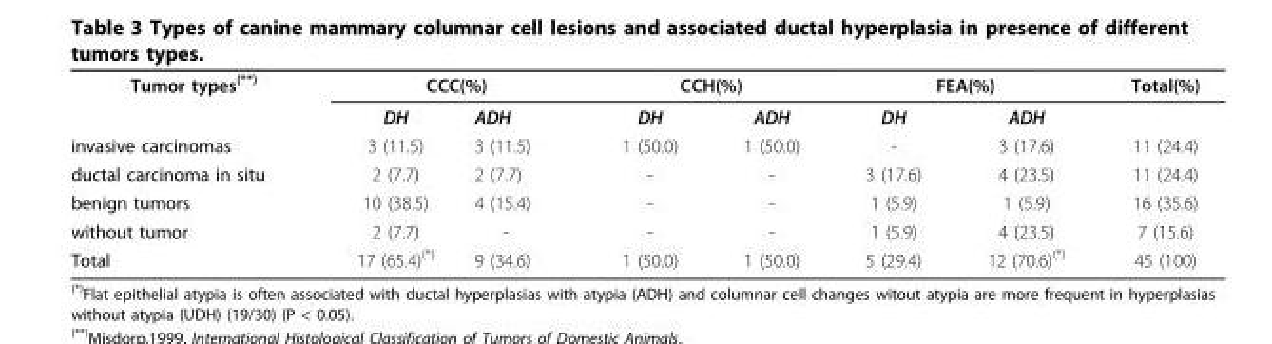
<table><tbody><tr><td rowspan="2">Tumor types<sup>(**)</sup></td><td colspan="2">CCC(%)</td><td colspan="2">CCH(%)</td><td colspan="2">FEA(%)</td><td>Total(%)</td></tr><tr><td>DH</td><td>ADH</td><td>DH</td><td>ADH</td><td>DH</td><td>ADH</td><td></td></tr><tr><td>invasive carcinomas</td><td>3 (11.5)</td><td>3 (11.5)</td><td>1 (50.0)</td><td>1 (50.0)</td><td>-</td><td>3 (17.6)</td><td>11 (24.4)</td></tr><tr><td>ductal carcinoma in situ</td><td>2 (7.7)</td><td>2 (7.7)</td><td>-</td><td>-</td><td>3 (17.6)</td><td>4 (23.5)</td><td>11 (24.4)</td></tr><tr><td>benign tumors</td><td>10 (38.5)</td><td>4 (15.4)</td><td>-</td><td>-</td><td>1 (5.9)</td><td>1 (5.9)</td><td>16 (35.6)</td></tr><tr><td>without tumor</td><td>2 (7.7)</td><td>-</td><td>-</td><td>-</td><td>1 (5.9)</td><td>4 (23.5)</td><td>7 (15.6)</td></tr><tr><td>Total</td><td>17 (65.4)<sup>(*)</sup></td><td>9 (34.6)</td><td>1 (50.0)</td><td>1 (50.0)</td><td>5 (29.4)</td><td>12 (70.6)<sup>(*)</sup></td><td>45 (100)</td></tr></tbody></table>